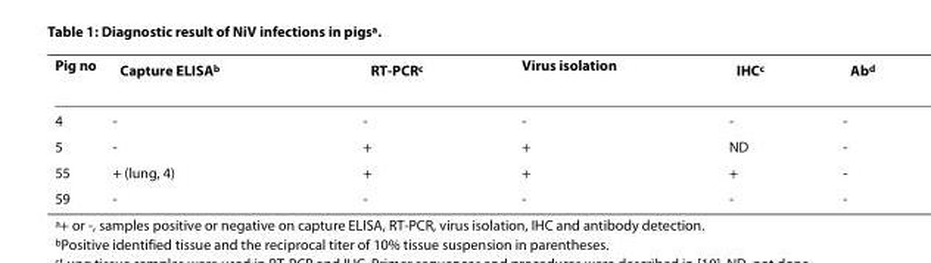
<table><thead><tr><td>Pig no</td><td>Capture ELISA<sup>b</sup></td><td>RT-PCR<sup>c</sup></td><td>Virus isolation</td><td>IHC<sup>c</sup></td><td>Ab<sup>d</sup></td></tr></thead><tbody><tr><td>4</td><td>-</td><td>-</td><td>-</td><td>-</td><td>-</td></tr><tr><td>5</td><td>-</td><td>+</td><td>+</td><td>ND</td><td>-</td></tr><tr><td>55</td><td>+ (lung, 4)</td><td>+</td><td>+</td><td>+</td><td>-</td></tr><tr><td>59</td><td>-</td><td>-</td><td>-</td><td>-</td><td>-</td></tr></tbody></table>